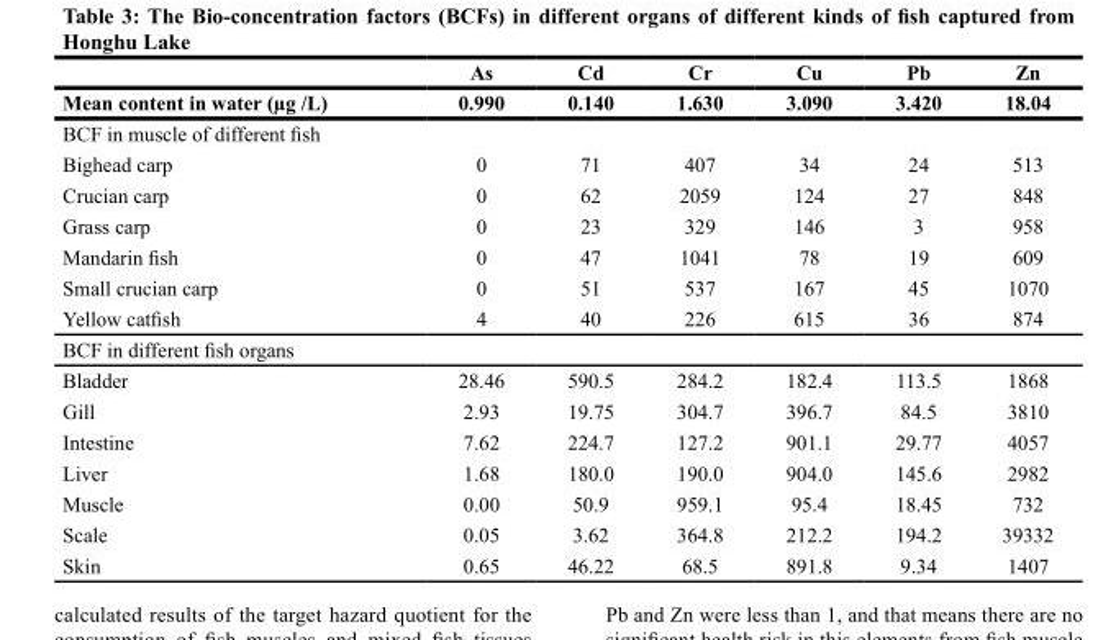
<table><thead><tr><td rowspan="2">Mean content in water (µg /L)</td><td rowspan="2">As 0.990</td><td rowspan="2">Cd 0.140</td><td rowspan="2">Cr 1.630</td><td rowspan="2">Cu 3.090</td><td rowspan="2">Pb 3.420</td><td rowspan="2">Zn 18.04</td></tr><tr></tr></thead><tbody><tr><td colspan="7">BCF in muscle of different fish</td></tr><tr><td>Bighead carp</td><td>0</td><td>71</td><td>407</td><td>34</td><td>24</td><td>513</td></tr><tr><td>Crucian carp</td><td>0</td><td>62</td><td>2059</td><td>124</td><td>27</td><td>848</td></tr><tr><td>Grass carp</td><td>0</td><td>23</td><td>329</td><td>146</td><td>3</td><td>958</td></tr><tr><td>Mandarin fish</td><td>0</td><td>47</td><td>1041</td><td>78</td><td>19</td><td>609</td></tr><tr><td>Small crucian carp</td><td>0</td><td>51</td><td>537</td><td>167</td><td>45</td><td>1070</td></tr><tr><td>Yellow catfish</td><td>4</td><td>40</td><td>226</td><td>615</td><td>36</td><td>874</td></tr><tr><td colspan="7">BCF in different fish organs</td></tr><tr><td>Bladder</td><td>28.46</td><td>590.5</td><td>284.2</td><td>182.4</td><td>113.5</td><td>1868</td></tr><tr><td>Gill</td><td>2.93</td><td>19.75</td><td>304.7</td><td>396.7</td><td>84.5</td><td>3810</td></tr><tr><td>Intestine</td><td>7.62</td><td>224.7</td><td>127.2</td><td>901.1</td><td>29.77</td><td>4057</td></tr><tr><td>Liver</td><td>1.68</td><td>180.0</td><td>190.0</td><td>904.0</td><td>145.6</td><td>2982</td></tr><tr><td>Muscle</td><td>0.00</td><td>50.9</td><td>959.1</td><td>95.4</td><td>18.45</td><td>732</td></tr><tr><td>Scale</td><td>0.05</td><td>3.62</td><td>364.8</td><td>212.2</td><td>194.2</td><td>39332</td></tr><tr><td>Skin</td><td>0.65</td><td>46.22</td><td>68.5</td><td>891.8</td><td>9.34</td><td>1407</td></tr></tbody></table>